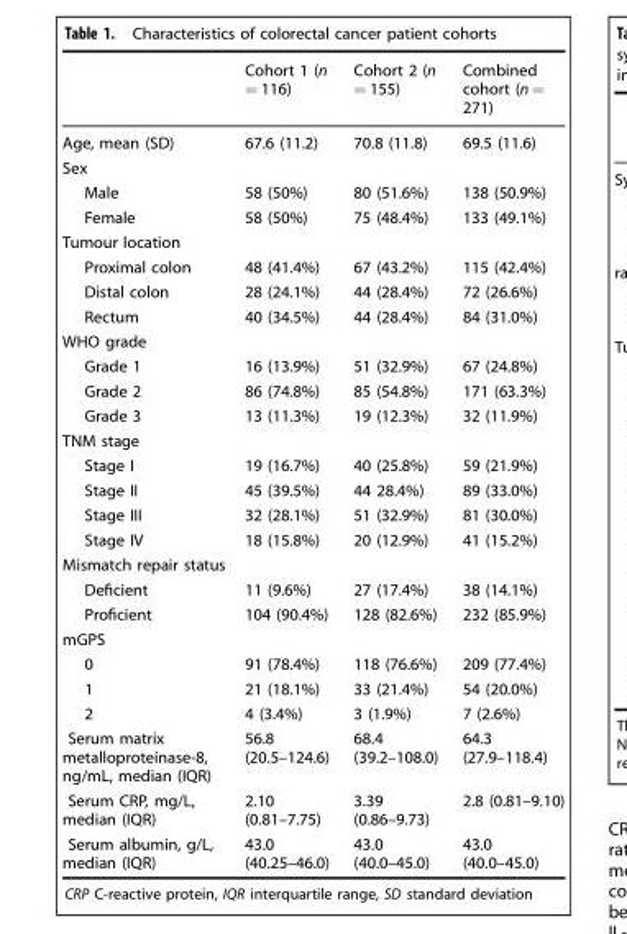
<table><thead><tr><td></td><td>Cohort 1 (n = 116)</td><td>Cohort 2 (n = 155)</td><td>Combined cohort (n = 271)</td></tr></thead><tbody><tr><td>Age, mean (SD)</td><td>67.6 (11.2)</td><td>70.8 (11.8)</td><td>69.5 (11.6)</td></tr><tr><td colspan="4">Sex</td></tr><tr><td>Male</td><td>58 (50%)</td><td>80 (51.6%)</td><td>138 (50.9%)</td></tr><tr><td>Female</td><td>58 (50%)</td><td>75 (48.4%)</td><td>133 (49.1%)</td></tr><tr><td colspan="4">Tumour location</td></tr><tr><td>Proximal colon</td><td>48 (41.4%)</td><td>67 (43.2%)</td><td>115 (42.4%)</td></tr><tr><td>Distal colon</td><td>28 (24.1%)</td><td>44 (28.4%)</td><td>72 (26.6%)</td></tr><tr><td>Rectum</td><td>40 (34.5%)</td><td>44 (28.4%)</td><td>84 (31.0%)</td></tr><tr><td colspan="4">WHO grade</td></tr><tr><td>Grade 1</td><td>16 (13.9%)</td><td>51 (32.9%)</td><td>67 (24.8%)</td></tr><tr><td>Grade 2</td><td>86 (74.8%)</td><td>85 (54.8%)</td><td>171 (63.3%)</td></tr><tr><td>Grade 3</td><td>13 (11.3%)</td><td>19 (12.3%)</td><td>32 (11.9%)</td></tr><tr><td colspan="4">TNM stage</td></tr><tr><td>Stage I</td><td>19 (16.7%)</td><td>40 (25.8%)</td><td>59 (21.9%)</td></tr><tr><td>Stage II</td><td>45 (39.5%)</td><td>44 28.4%)</td><td>89 (33.0%)</td></tr><tr><td>Stage III</td><td>32 (28.1%)</td><td>51 (32.9%)</td><td>81 (30.0%)</td></tr><tr><td>Stage IV</td><td>18 (15.8%)</td><td>20 (12.9%)</td><td>41 (15.2%)</td></tr><tr><td colspan="4">Mismatch repair status</td></tr><tr><td>Deficient</td><td>11 (9.6%)</td><td>27 (17.4%)</td><td>38 (14.1%)</td></tr><tr><td>Proficient</td><td>104 (90.4%)</td><td>128 (82.6%)</td><td>232 (85.9%)</td></tr><tr><td colspan="4">mGPS</td></tr><tr><td>0</td><td>91 (78.4%)</td><td>118 (76.6%)</td><td>209 (77.4%)</td></tr><tr><td>1</td><td>21 (18.1%)</td><td>33 (21.4%)</td><td>54 (20.0%)</td></tr><tr><td>2</td><td>4 (3.4%)</td><td>3 (1.9%)</td><td>7 (2.6%)</td></tr><tr><td>Serum matrix metalloproteinase-8, ng/mL, median (IQR)</td><td>56.8 (20.5–124.6)</td><td>68.4 (39.2–108.0)</td><td>64.3 (27.9–118.4)</td></tr><tr><td>Serum CRP, mg/L, median (IQR)</td><td>2.10 (0.81–7.75)</td><td>3.39 (0.86–9.73)</td><td>2.8 (0.81–9.10)</td></tr><tr><td>Serum albumin, g/L, median (IQR)</td><td>43.0 (40.25–46.0)</td><td>43.0 (40.0–45.0)</td><td>43.0 (40.0–45.0)</td></tr></tbody></table>